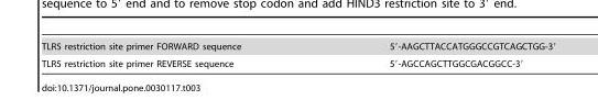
<table><tbody><tr><td>TLR5 restriction site primer FORWARD sequence</td><td>5′-AAGCTTACCATGGGCCGTCAGCTGG-3′</td></tr><tr><td>TLR5 restriction site primer REVERSE sequence</td><td>5′-AGCCAGCTTGGCGACGGCC-3′</td></tr></tbody></table>